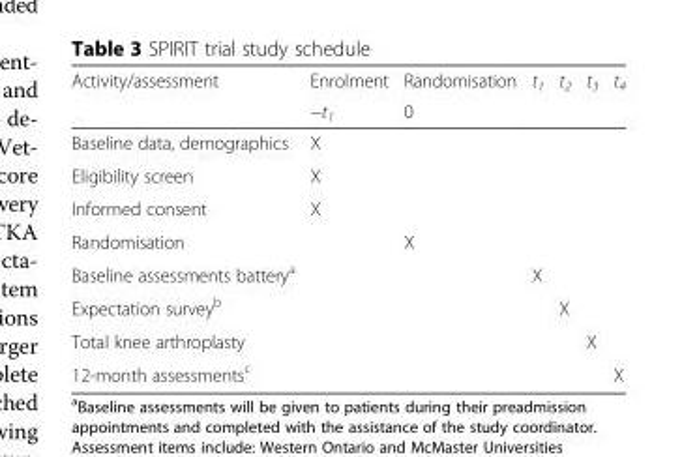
<table><thead><tr><td rowspan="2">Activity/assessment</td><td rowspan="2">Enrolment −t<sub>1</sub></td><td rowspan="2">Randomisation 0</td><td rowspan="2">t<sub>1</sub></td><td rowspan="2">t<sub>2</sub></td><td rowspan="2">t<sub>3</sub></td><td rowspan="2">t<sub>4</sub></td></tr><tr></tr></thead><tbody><tr><td>Baseline data, demographics</td><td>X</td><td></td><td></td><td></td><td></td><td></td></tr><tr><td>Eligibility screen</td><td>X</td><td></td><td></td><td></td><td></td><td></td></tr><tr><td>Informed consent</td><td>X</td><td></td><td></td><td></td><td></td><td></td></tr><tr><td>Randomisation</td><td></td><td>X</td><td></td><td></td><td></td><td></td></tr><tr><td>Baseline assessments battery<sup>a</sup></td><td></td><td></td><td>X</td><td></td><td></td><td></td></tr><tr><td>Expectation survey<sup>b</sup></td><td></td><td></td><td></td><td>X</td><td></td><td></td></tr><tr><td>Total knee arthroplasty</td><td></td><td></td><td></td><td></td><td>X</td><td></td></tr><tr><td>12-month assessments<sup>c</sup></td><td></td><td></td><td></td><td></td><td></td><td>X</td></tr></tbody></table>